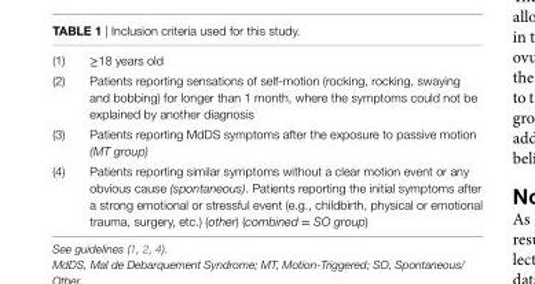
<table><tbody><tr><td>(1)</td><td>≥18 years old</td></tr><tr><td>(2)</td><td>Patients reporting sensations of self-motion (rocking, rocking, swaying and bobbing) for longer than 1 month, where the symptoms could not be explained by another diagnosis</td></tr><tr><td>(3)</td><td>Patients reporting MdDS symptoms after the exposure to passive motion (MT group)</td></tr><tr><td>(4)</td><td>Patients reporting similar symptoms without a clear motion event or any obvious cause (spontaneous). Patients reporting the initial symptoms after a strong emotional or stressful event (e.g., childbirth, physical or emotional trauma, surgery, etc.) (other) (combined = SO group)</td></tr></tbody></table>